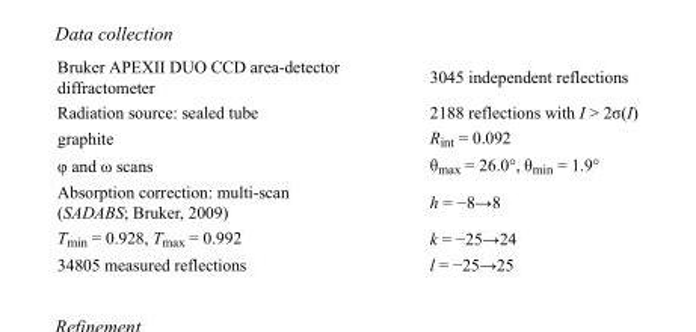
<table><tbody><tr><td>Bruker APEXII DUO CCD area-detector diffractometer</td><td>3045 independent reflections</td></tr><tr><td>Radiation source: sealed tube</td><td>2188 reflections with I &gt; 2σ(I)</td></tr><tr><td>graphite</td><td>R<sub>int</sub> = 0.092</td></tr><tr><td>φ and ω scans</td><td>θ<sub>max</sub> = 26.0°, θ<sub>min</sub> = 1.9°</td></tr><tr><td>Absorption correction: multi-scan (SADABS; Bruker, 2009)</td><td>h = −8→8</td></tr><tr><td>T<sub>min</sub> = 0.928, T<sub>max</sub> = 0.992</td><td>k = −25→24</td></tr><tr><td>34805 measured reflections</td><td>l = −25→25</td></tr></tbody></table>